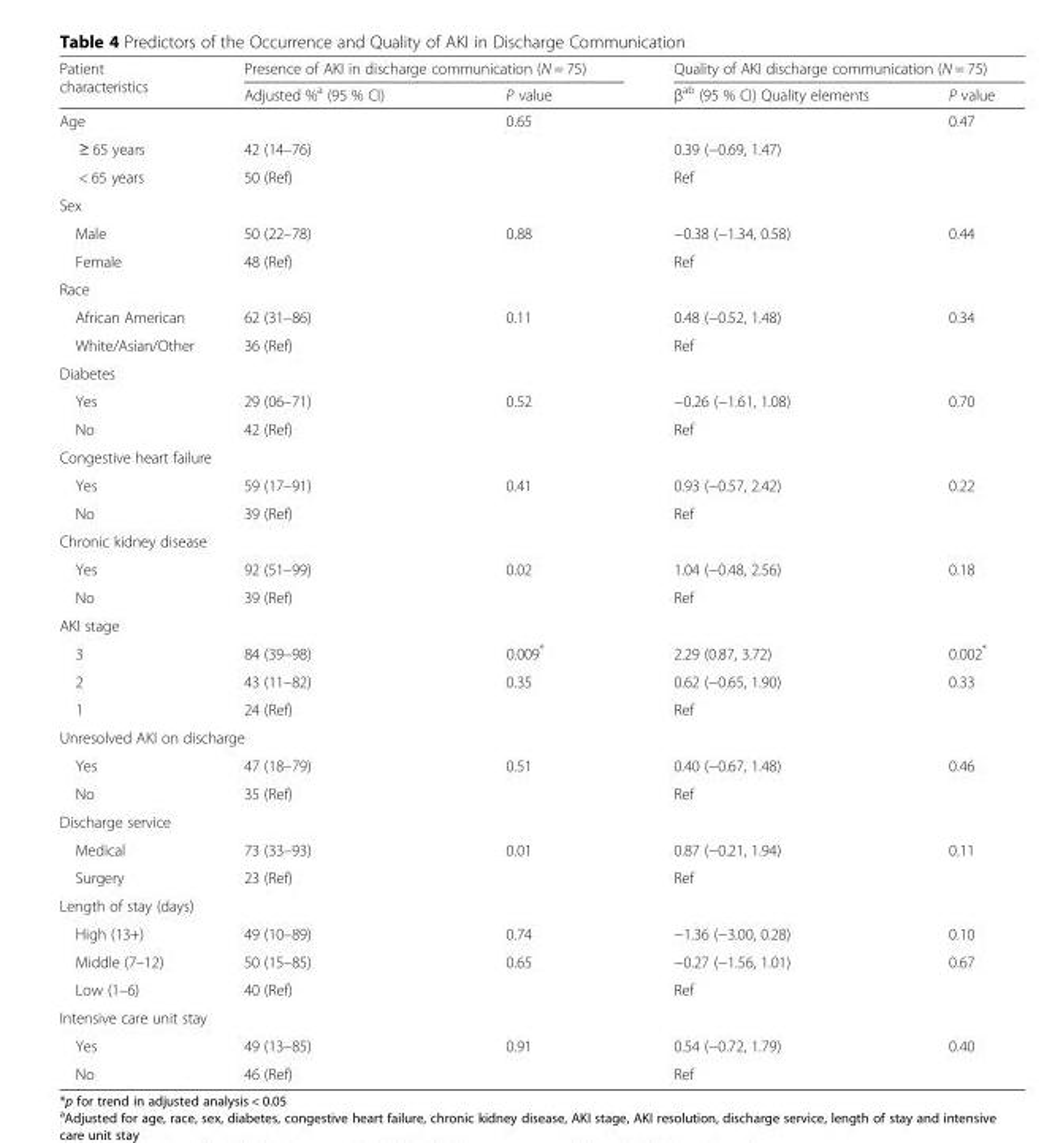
<table><thead><tr><td rowspan="2">Patient characteristics</td><td colspan="2">Presence of AKI in discharge communication (N = 75)</td><td colspan="2">Quality of AKI discharge communication (N = 75)</td></tr><tr><td>Adjusted %<sup>a</sup> (95 % CI)</td><td>P value</td><td>β<sup>ab</sup> (95 % CI) Quality elements</td><td>P value</td></tr></thead><tbody><tr><td>Age</td><td></td><td>0.65</td><td></td><td>0.47</td></tr><tr><td>≥ 65 years</td><td>42 (14–76)</td><td></td><td>0.39 (−0.69, 1.47)</td><td></td></tr><tr><td>&lt; 65 years</td><td>50 (Ref)</td><td></td><td>Ref</td><td></td></tr><tr><td colspan="5">Sex</td></tr><tr><td>Male</td><td>50 (22–78)</td><td>0.88</td><td>−0.38 (−1.34, 0.58)</td><td>0.44</td></tr><tr><td>Female</td><td>48 (Ref)</td><td></td><td>Ref</td><td></td></tr><tr><td colspan="5">Race</td></tr><tr><td>African American</td><td>62 (31–86)</td><td>0.11</td><td>0.48 (−0.52, 1.48)</td><td>0.34</td></tr><tr><td>White/Asian/Other</td><td>36 (Ref)</td><td></td><td>Ref</td><td></td></tr><tr><td colspan="5">Diabetes</td></tr><tr><td>Yes</td><td>29 (06–71)</td><td>0.52</td><td>−0.26 (−1.61, 1.08)</td><td>0.70</td></tr><tr><td>No</td><td>42 (Ref)</td><td></td><td>Ref</td><td></td></tr><tr><td colspan="5">Congestive heart failure</td></tr><tr><td>Yes</td><td>59 (17–91)</td><td>0.41</td><td>0.93 (−0.57, 2.42)</td><td>0.22</td></tr><tr><td>No</td><td>39 (Ref)</td><td></td><td>Ref</td><td></td></tr><tr><td colspan="5">Chronic kidney disease</td></tr><tr><td>Yes</td><td>92 (51–99)</td><td>0.02</td><td>1.04 (−0.48, 2.56)</td><td>0.18</td></tr><tr><td>No</td><td>39 (Ref)</td><td></td><td>Ref</td><td></td></tr><tr><td colspan="5">AKI stage</td></tr><tr><td>3</td><td>84 (39–98)</td><td>0.009*</td><td>2.29 (0.87, 3.72)</td><td>0.002*</td></tr><tr><td>2</td><td>43 (11–82)</td><td>0.35</td><td>0.62 (−0.65, 1.90)</td><td>0.33</td></tr><tr><td>1</td><td>24 (Ref)</td><td></td><td>Ref</td><td></td></tr><tr><td colspan="5">Unresolved AKI on discharge</td></tr><tr><td>Yes</td><td>47 (18–79)</td><td>0.51</td><td>0.40 (−0.67, 1.48)</td><td>0.46</td></tr><tr><td>No</td><td>35 (Ref)</td><td></td><td>Ref</td><td></td></tr><tr><td colspan="5">Discharge service</td></tr><tr><td>Medical</td><td>73 (33–93)</td><td>0.01</td><td>0.87 (−0.21, 1.94)</td><td>0.11</td></tr><tr><td>Surgery</td><td>23 (Ref)</td><td></td><td>Ref</td><td></td></tr><tr><td colspan="5">Length of stay (days)</td></tr><tr><td>High (13+)</td><td>49 (10–89)</td><td>0.74</td><td>−1.36 (−3.00, 0.28)</td><td>0.10</td></tr><tr><td>Middle (7–12)</td><td>50 (15–85)</td><td>0.65</td><td>−0.27 (−1.56, 1.01)</td><td>0.67</td></tr><tr><td>Low (1–6)</td><td>40 (Ref)</td><td></td><td>Ref</td><td></td></tr><tr><td colspan="5">Intensive care unit stay</td></tr><tr><td>Yes</td><td>49 (13–85)</td><td>0.91</td><td>0.54 (−0.72, 1.79)</td><td>0.40</td></tr><tr><td>No</td><td>46 (Ref)</td><td></td><td>Ref</td><td></td></tr></tbody></table>